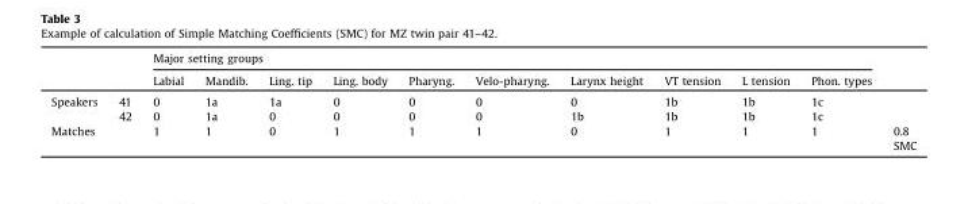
<table><thead><tr><td rowspan="2"></td><td rowspan="2"></td><td colspan="10">Major setting groups</td><td rowspan="2"></td></tr><tr><td>Labial</td><td>Mandib.</td><td>Ling. tip</td><td>Ling. body</td><td>Pharyng.</td><td>Velo-pharyng.</td><td>Larynx height</td><td>VT tension</td><td>L tension</td><td>Phon. types</td></tr></thead><tbody><tr><td rowspan="2">Speakers</td><td>41</td><td>0</td><td>1a</td><td>1a</td><td>0</td><td>0</td><td>0</td><td>0</td><td>1b</td><td>1b</td><td>1c</td><td></td></tr><tr><td>42</td><td>0</td><td>1a</td><td>0</td><td>0</td><td>0</td><td>0</td><td>1b</td><td>1b</td><td>1b</td><td>1c</td><td></td></tr><tr><td colspan="2">Matches</td><td>1</td><td>1</td><td>0</td><td>1</td><td>1</td><td>1</td><td>0</td><td>1</td><td>1</td><td>1</td><td>0.8</td></tr><tr><td></td><td></td><td></td><td></td><td></td><td></td><td></td><td></td><td></td><td></td><td></td><td></td><td>SMC</td></tr></tbody></table>